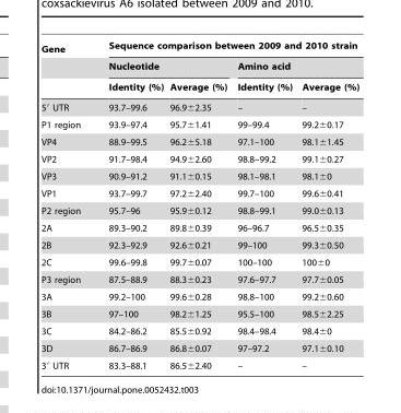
<table><thead><tr><td rowspan="3">Gene</td><td colspan="4">Sequence comparison between 2009 and 2010 strain</td></tr><tr><td colspan="2">Nucleotide</td><td colspan="2">Amino acid</td></tr><tr><td>Identity (%)</td><td>Average (%)</td><td>Identity (%)</td><td>Average (%)</td></tr></thead><tbody><tr><td>5′ UTR</td><td>93.7–99.6</td><td>96.9±2.35</td><td>–</td><td>–</td></tr><tr><td>P1 region</td><td>93.9–97.4</td><td>95.7±1.41</td><td>99–99.4</td><td>99.2±0.17</td></tr><tr><td>VP4</td><td>88.9–99.5</td><td>96.2±5.18</td><td>97.1–100</td><td>98.1±1.45</td></tr><tr><td>VP2</td><td>91.7–98.4</td><td>94.9±2.60</td><td>98.8–99.2</td><td>99.1±0.27</td></tr><tr><td>VP3</td><td>90.9–91.2</td><td>91.1±0.15</td><td>98.1–98.1</td><td>98.1±0</td></tr><tr><td>VP1</td><td>93.7–99.7</td><td>97.2±2.40</td><td>99.7–100</td><td>99.6±0.41</td></tr><tr><td>P2 region</td><td>95.7–96</td><td>95.9±0.12</td><td>98.8–99.1</td><td>99.0±0.13</td></tr><tr><td>2A</td><td>89.3–90.2</td><td>89.8±0.39</td><td>96–96.7</td><td>96.5±0.35</td></tr><tr><td>2B</td><td>92.3–92.9</td><td>92.6±0.21</td><td>99–100</td><td>99.3±0.50</td></tr><tr><td>2C</td><td>99.6–99.8</td><td>99.7±0.07</td><td>100–100</td><td>100±0</td></tr><tr><td>P3 region</td><td>87.5–88.9</td><td>88.3±0.23</td><td>97.6–97.7</td><td>97.7±0.05</td></tr><tr><td>3A</td><td>99.2–100</td><td>99.6±0.28</td><td>98.8–100</td><td>99.2±0.60</td></tr><tr><td>3B</td><td>97–100</td><td>98.2±1.25</td><td>95.5–100</td><td>98.5±2.25</td></tr><tr><td>3C</td><td>84.2–86.2</td><td>85.5±0.92</td><td>98.4–98.4</td><td>98.4±0</td></tr><tr><td>3D</td><td>86.7–86.9</td><td>86.8±0.07</td><td>97–97.2</td><td>97.1±0.10</td></tr><tr><td>3′ UTR</td><td>83.3–88.1</td><td>86.5±2.40</td><td>–</td><td>–</td></tr></tbody></table>